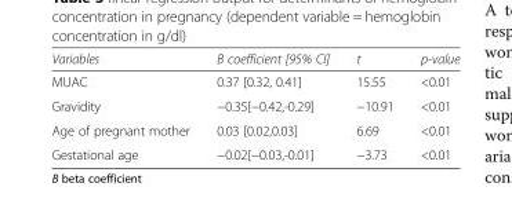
<table><thead><tr><td>Variables</td><td>B coefficient [95% CI]</td><td>t</td><td>p-value</td></tr></thead><tbody><tr><td>MUAC</td><td>0.37 [0.32, 0.41]</td><td>15.55</td><td>&lt;0.01</td></tr><tr><td>Gravidity</td><td>−0.35[−0.42,-0.29]</td><td>−10.91</td><td>&lt;0.01</td></tr><tr><td>Age of pregnant mother</td><td>0.03 [0.02,0.03]</td><td>6.69</td><td>&lt;0.01</td></tr><tr><td>Gestational age</td><td>−0.02[−0.03,-0.01]</td><td>−3.73</td><td>&lt;0.01</td></tr></tbody></table>